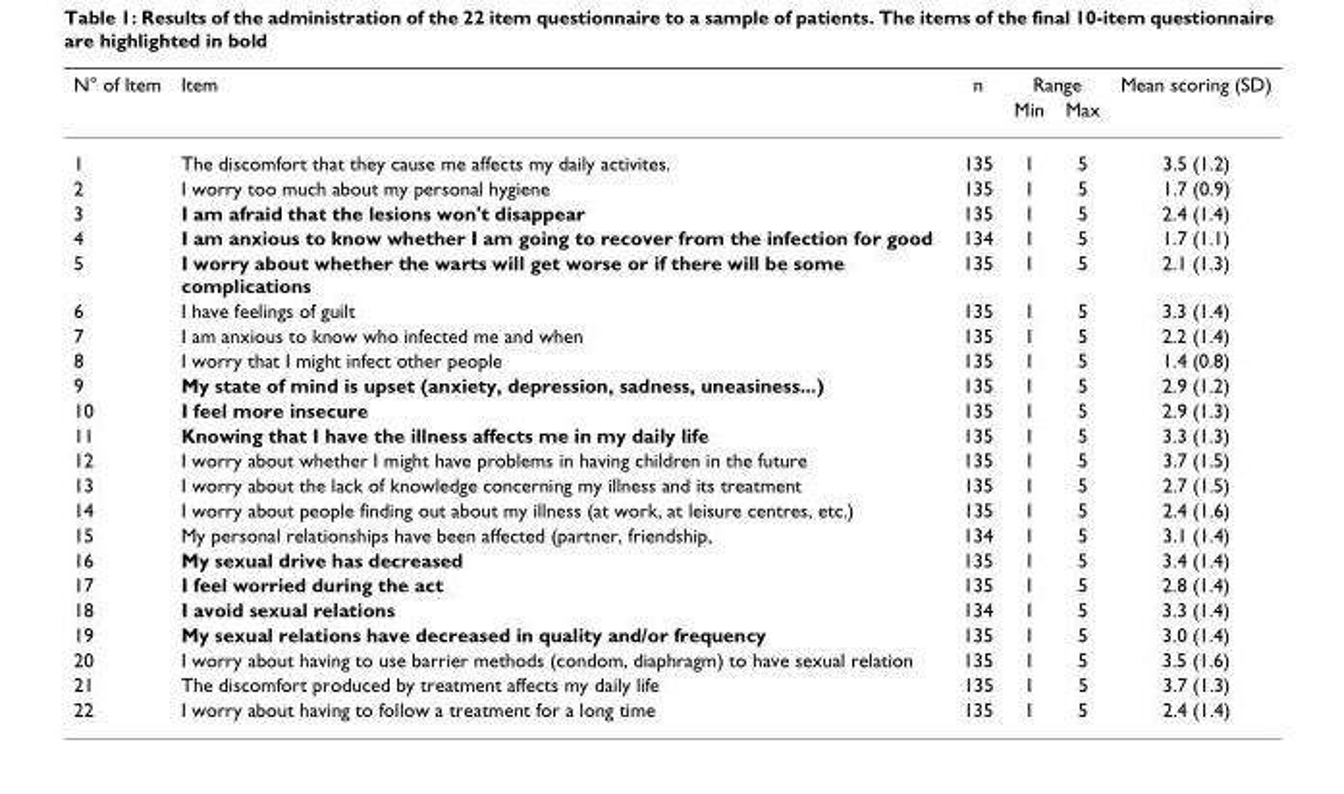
<table><thead><tr><td rowspan="2">N° of Item</td><td rowspan="2">Item</td><td rowspan="2">n</td><td colspan="2">Range</td><td rowspan="2">Mean scoring (SD)</td></tr><tr><td>Min</td><td>Max</td></tr></thead><tbody><tr><td>1</td><td>The discomfort that they cause me affects my daily activites.</td><td>135</td><td>1</td><td>5</td><td>3.5 (1.2)</td></tr><tr><td>2</td><td>I worry too much about my personal hygiene</td><td>135</td><td>1</td><td>5</td><td>1.7 (0.9)</td></tr><tr><td>3</td><td>I am afraid that the lesions won&#x27;t disappear</td><td>135</td><td>1</td><td>5</td><td>2.4 (1.4)</td></tr><tr><td>4</td><td>I am anxious to know whether I am going to recover from the infection for good</td><td>134</td><td>1</td><td>5</td><td>1.7 (1.1)</td></tr><tr><td>5</td><td>I worry about whether the warts will get worse or if there will be some complications</td><td>135</td><td>1</td><td>5</td><td>2.1 (1.3)</td></tr><tr><td>6</td><td>I have feelings of guilt</td><td>135</td><td>1</td><td>5</td><td>3.3 (1.4)</td></tr><tr><td>7</td><td>I am anxious to know who infected me and when</td><td>135</td><td>1</td><td>5</td><td>2.2 (1.4)</td></tr><tr><td>8</td><td>I worry that I might infect other people</td><td>135</td><td>1</td><td>5</td><td>1.4 (0.8)</td></tr><tr><td>9</td><td>My state of mind is upset (anxiety, depression, sadness, uneasiness...)</td><td>135</td><td>1</td><td>5</td><td>2.9 (1.2)</td></tr><tr><td>10</td><td>I feel more insecure</td><td>135</td><td>1</td><td>5</td><td>2.9 (1.3)</td></tr><tr><td>11</td><td>Knowing that I have the illness affects me in my daily life</td><td>135</td><td>1</td><td>5</td><td>3.3 (1.3)</td></tr><tr><td>12</td><td>I worry about whether I might have problems in having children in the future</td><td>135</td><td>1</td><td>5</td><td>3.7 (1.5)</td></tr><tr><td>13</td><td>I worry about the lack of knowledge concerning my illness and its treatment</td><td>135</td><td>1</td><td>5</td><td>2.7 (1.5)</td></tr><tr><td>14</td><td>I worry about people finding out about my illness (at work, at leisure centres, etc.)</td><td>135</td><td>1</td><td>5</td><td>2.4 (1.6)</td></tr><tr><td>15</td><td>My personal relationships have been affected (partner, friendship,</td><td>134</td><td>1</td><td>5</td><td>3.1 (1.4)</td></tr><tr><td>16</td><td>My sexual drive has decreased</td><td>135</td><td>1</td><td>5</td><td>3.4 (1.4)</td></tr><tr><td>17</td><td>I feel worried during the act</td><td>135</td><td>1</td><td>5</td><td>2.8 (1.4)</td></tr><tr><td>18</td><td>I avoid sexual relations</td><td>134</td><td>1</td><td>5</td><td>3.3 (1.4)</td></tr><tr><td>19</td><td>My sexual relations have decreased in quality and/or frequency</td><td>135</td><td>1</td><td>5</td><td>3.0 (1.4)</td></tr><tr><td>20</td><td>I worry about having to use barrier methods (condom, diaphragm) to have sexual relation</td><td>135</td><td>1</td><td>5</td><td>3.5 (1.6)</td></tr><tr><td>21</td><td>The discomfort produced by treatment affects my daily life</td><td>135</td><td>1</td><td>5</td><td>3.7 (1.3)</td></tr><tr><td>22</td><td>I worry about having to follow a treatment for a long time</td><td>135</td><td>1</td><td>5</td><td>2.4 (1.4)</td></tr></tbody></table>